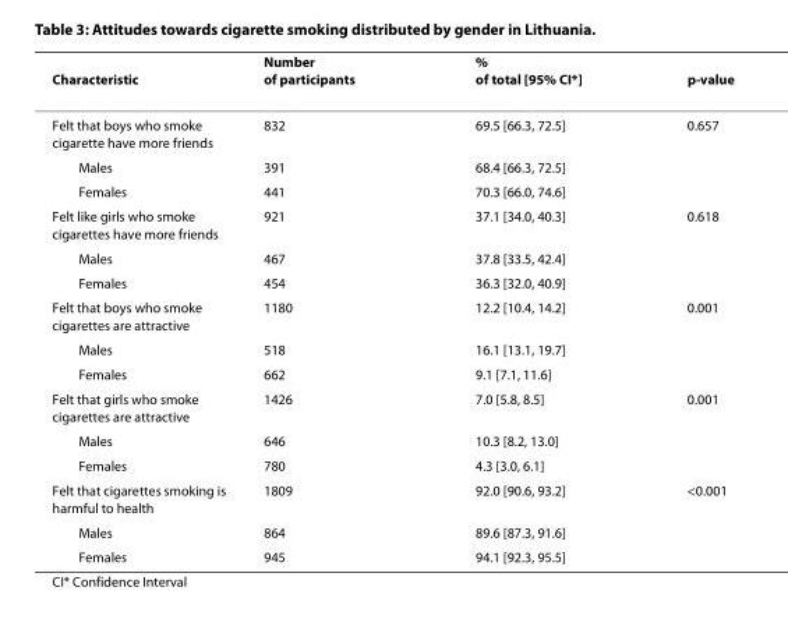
<table><thead><tr><td>Characteristic</td><td>Number of participants</td><td>% of total [95% CI*]</td><td>p-value</td></tr></thead><tbody><tr><td>Felt that boys who smoke cigarette have more friends</td><td>832</td><td>69.5 [66.3, 72.5]</td><td>0.657</td></tr><tr><td>Males</td><td>391</td><td>68.4 [66.3, 72.5]</td><td></td></tr><tr><td>Females</td><td>441</td><td>70.3 [66.0, 74.6]</td><td></td></tr><tr><td>Felt like girls who smoke cigarettes have more friends</td><td>921</td><td>37.1 [34.0, 40.3]</td><td>0.618</td></tr><tr><td>Males</td><td>467</td><td>37.8 [33.5, 42.4]</td><td></td></tr><tr><td>Females</td><td>454</td><td>36.3 [32.0, 40.9]</td><td></td></tr><tr><td>Felt that boys who smoke cigarettes are attractive</td><td>1180</td><td>12.2 [10.4, 14.2]</td><td>0.001</td></tr><tr><td>Males</td><td>518</td><td>16.1 [13.1, 19.7]</td><td></td></tr><tr><td>Females</td><td>662</td><td>9.1 [7.1, 11.6]</td><td></td></tr><tr><td>Felt that girls who smoke cigarettes are attractive</td><td>1426</td><td>7.0 [5.8, 8.5]</td><td>0.001</td></tr><tr><td>Males</td><td>646</td><td>10.3 [8.2, 13.0]</td><td></td></tr><tr><td>Females</td><td>780</td><td>4.3 [3.0, 6.1]</td><td></td></tr><tr><td>Felt that cigarettes smoking is harmful to health</td><td>1809</td><td>92.0 [90.6, 93.2]</td><td>&lt;0.001</td></tr><tr><td>Males</td><td>864</td><td>89.6 [87.3, 91.6]</td><td></td></tr><tr><td>Females</td><td>945</td><td>94.1 [92.3, 95.5]</td><td></td></tr></tbody></table>